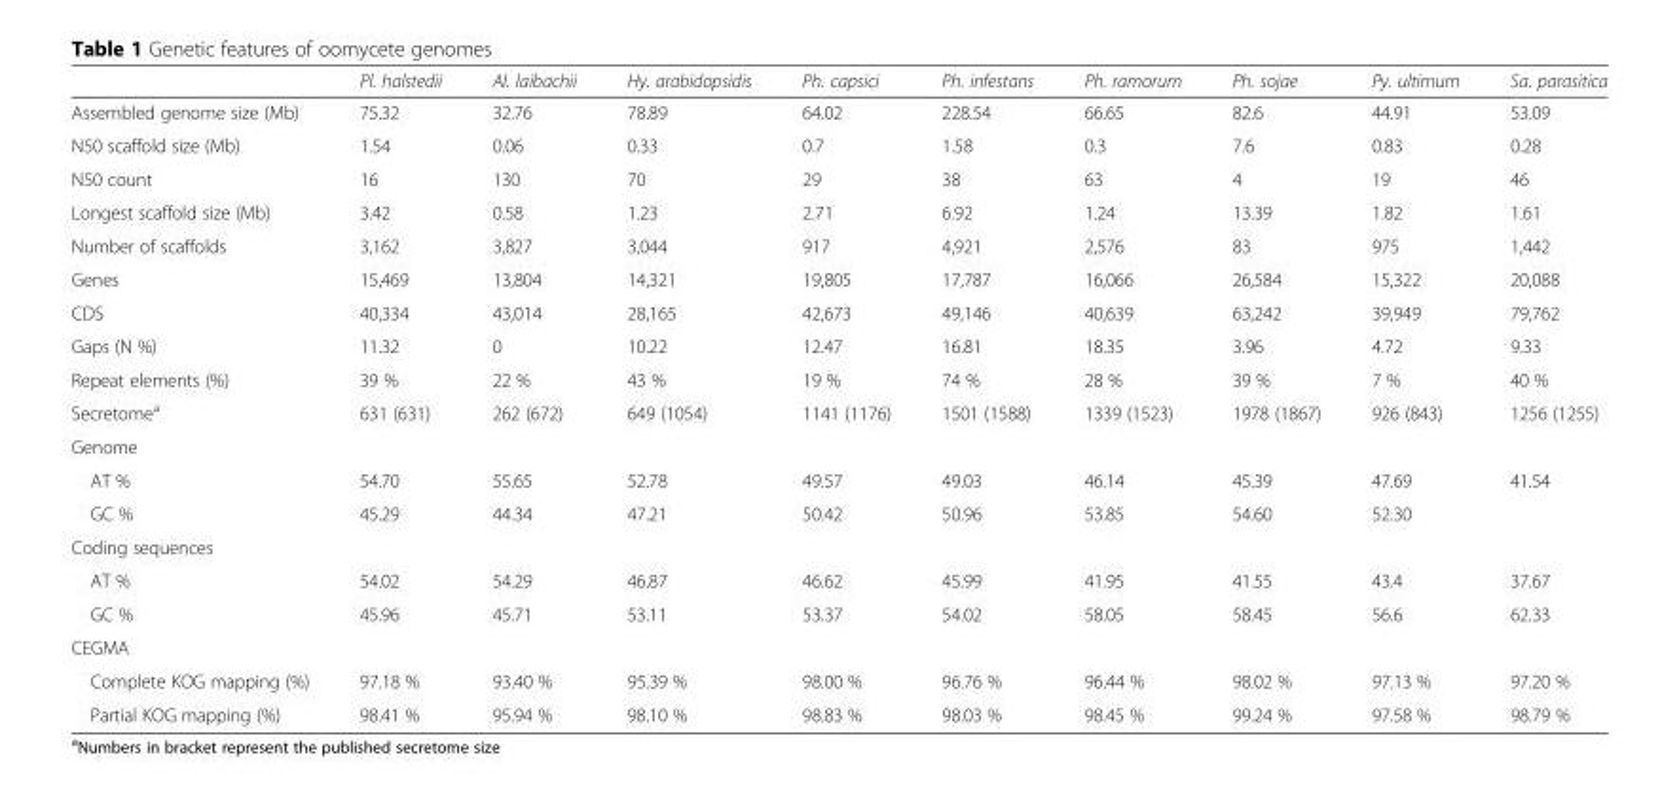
<table><thead><tr><td></td><td>Pl. halstedii</td><td>Al. laibachii</td><td>Hy. arabidopsidis</td><td>Ph. capsici</td><td>Ph. infestans</td><td>Ph. ramorum</td><td>Ph. sojae</td><td>Py. ultimum</td><td>Sa. parasitica</td></tr></thead><tbody><tr><td>Assembled genome size (Mb)</td><td>75.32</td><td>32.76</td><td>78.89</td><td>64.02</td><td>228.54</td><td>66.65</td><td>82.6</td><td>44.91</td><td>53.09</td></tr><tr><td>N50 scaffold size (Mb)</td><td>1.54</td><td>0.06</td><td>0.33</td><td>0.7</td><td>1.58</td><td>0.3</td><td>7.6</td><td>0.83</td><td>0.28</td></tr><tr><td>N50 count</td><td>16</td><td>130</td><td>70</td><td>29</td><td>38</td><td>63</td><td>4</td><td>19</td><td>46</td></tr><tr><td>Longest scaffold size (Mb)</td><td>3.42</td><td>0.58</td><td>1.23</td><td>2.71</td><td>6.92</td><td>1.24</td><td>13.39</td><td>1.82</td><td>1.61</td></tr><tr><td>Number of scaffolds</td><td>3,162</td><td>3,827</td><td>3,044</td><td>917</td><td>4,921</td><td>2,576</td><td>83</td><td>975</td><td>1,442</td></tr><tr><td>Genes</td><td>15,469</td><td>13,804</td><td>14,321</td><td>19,805</td><td>17,787</td><td>16,066</td><td>26,584</td><td>15,322</td><td>20,088</td></tr><tr><td>CDS</td><td>40,334</td><td>43,014</td><td>28,165</td><td>42,673</td><td>49,146</td><td>40,639</td><td>63,242</td><td>39,949</td><td>79,762</td></tr><tr><td>Gaps (N %)</td><td>11.32</td><td>0</td><td>10.22</td><td>12.47</td><td>16.81</td><td>18.35</td><td>3.96</td><td>4.72</td><td>9.33</td></tr><tr><td>Repeat elements (%)</td><td>39 %</td><td>22 %</td><td>43 %</td><td>19 %</td><td>74 %</td><td>28 %</td><td>39 %</td><td>7 %</td><td>40 %</td></tr><tr><td>Secretome<sup>a</sup></td><td>631 (631)</td><td>262 (672)</td><td>649 (1054)</td><td>1141 (1176)</td><td>1501 (1588)</td><td>1339 (1523)</td><td>1978 (1867)</td><td>926 (843)</td><td>1256 (1255)</td></tr><tr><td colspan="10">Genome</td></tr><tr><td>AT %</td><td>54.70</td><td>55.65</td><td>52.78</td><td>49.57</td><td>49.03</td><td>46.14</td><td>45.39</td><td>47.69</td><td>41.54</td></tr><tr><td>GC %</td><td>45.29</td><td>44.34</td><td>47.21</td><td>50.42</td><td>50.96</td><td>53.85</td><td>54.60</td><td>52.30</td><td></td></tr><tr><td colspan="10">Coding sequences</td></tr><tr><td>AT %</td><td>54.02</td><td>54.29</td><td>46.87</td><td>46.62</td><td>45.99</td><td>41.95</td><td>41.55</td><td>43.4</td><td>37.67</td></tr><tr><td>GC %</td><td>45.96</td><td>45.71</td><td>53.11</td><td>53.37</td><td>54.02</td><td>58.05</td><td>58.45</td><td>56.6</td><td>62.33</td></tr><tr><td colspan="10">CEGMA</td></tr><tr><td>Complete KOG mapping (%)</td><td>97.18 %</td><td>93.40 %</td><td>95.39 %</td><td>98.00 %</td><td>96.76 %</td><td>96.44 %</td><td>98.02 %</td><td>97.13 %</td><td>97.20 %</td></tr><tr><td>Partial KOG mapping (%)</td><td>98.41 %</td><td>95.94 %</td><td>98.10 %</td><td>98.83 %</td><td>98.03 %</td><td>98.45 %</td><td>99.24 %</td><td>97.58 %</td><td>98.79 %</td></tr></tbody></table>